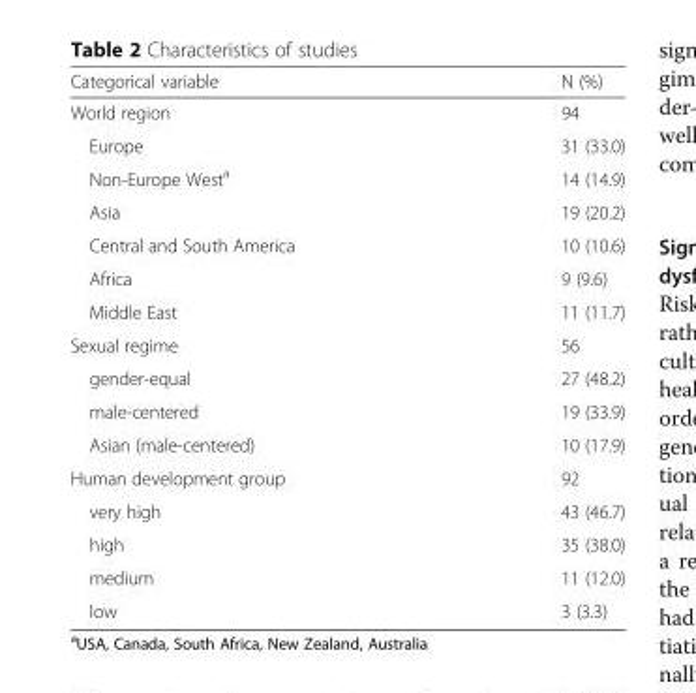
<table><thead><tr><td>Categorical variable</td><td>N (%)</td></tr></thead><tbody><tr><td>World region</td><td>94</td></tr><tr><td>Europe</td><td>31 (33.0)</td></tr><tr><td>Non-Europe West<sup>a</sup></td><td>14 (14.9)</td></tr><tr><td>Asia</td><td>19 (20.2)</td></tr><tr><td>Central and South America</td><td>10 (10.6)</td></tr><tr><td>Africa</td><td>9 (9.6)</td></tr><tr><td>Middle East</td><td>11 (11.7)</td></tr><tr><td>Sexual regime</td><td>56</td></tr><tr><td>gender-equal</td><td>27 (48.2)</td></tr><tr><td>male-centered</td><td>19 (33.9)</td></tr><tr><td>Asian (male-centered)</td><td>10 (17.9)</td></tr><tr><td>Human development group</td><td>92</td></tr><tr><td>very high</td><td>43 (46.7)</td></tr><tr><td>high</td><td>35 (38.0)</td></tr><tr><td>medium</td><td>11 (12.0)</td></tr><tr><td>low</td><td>3 (3.3)</td></tr></tbody></table>